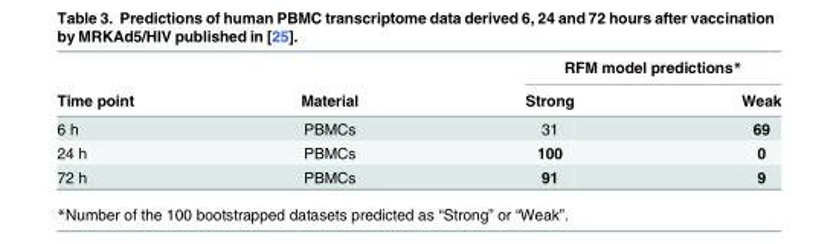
<table><thead><tr><td rowspan="2">Time point</td><td rowspan="2">Material</td><td colspan="2">RFM model predictions*</td></tr><tr><td>Strong</td><td>Weak</td></tr></thead><tbody><tr><td>6 h</td><td>PBMCs</td><td>31</td><td>69</td></tr><tr><td>24 h</td><td>PBMCs</td><td>100</td><td>0</td></tr><tr><td>72 h</td><td>PBMCs</td><td>91</td><td>9</td></tr></tbody></table>